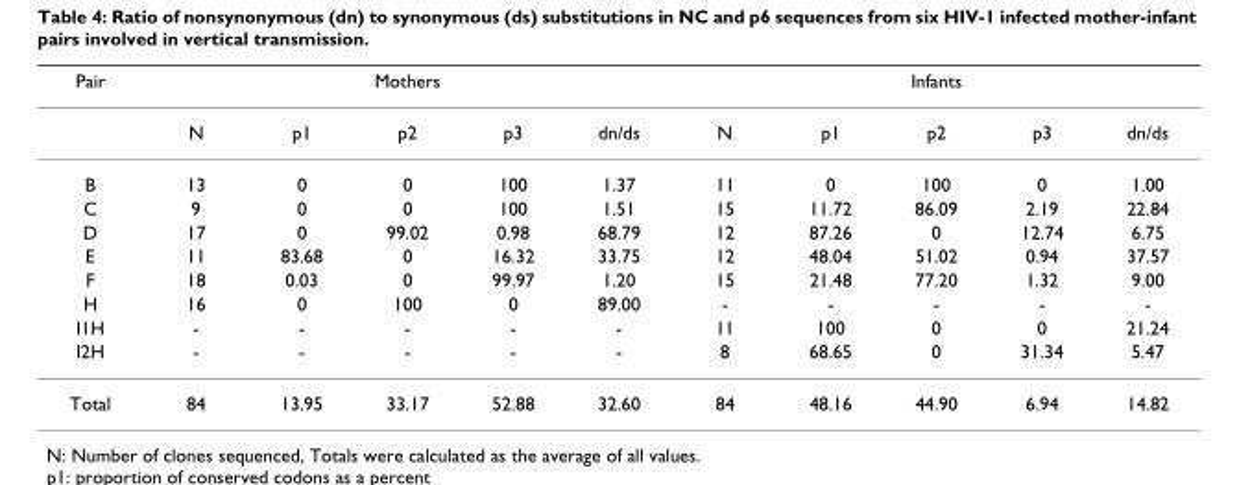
<table><thead><tr><td rowspan="2">Pair</td><td colspan="5">Mothers</td><td colspan="5">Infants</td></tr><tr><td>N</td><td>p1</td><td>p2</td><td>p3</td><td>dn/ds</td><td>N</td><td>p1</td><td>p2</td><td>p3</td><td>dn/ds</td></tr></thead><tbody><tr><td>B</td><td>13</td><td>0</td><td>0</td><td>100</td><td>1.37</td><td>11</td><td>0</td><td>100</td><td>0</td><td>1.00</td></tr><tr><td>C</td><td>9</td><td>0</td><td>0</td><td>100</td><td>1.51</td><td>15</td><td>11.72</td><td>86.09</td><td>2.19</td><td>22.84</td></tr><tr><td>D</td><td>17</td><td>0</td><td>99.02</td><td>0.98</td><td>68.79</td><td>12</td><td>87.26</td><td>0</td><td>12.74</td><td>6.75</td></tr><tr><td>E</td><td>11</td><td>83.68</td><td>0</td><td>16.32</td><td>33.75</td><td>12</td><td>48.04</td><td>51.02</td><td>0.94</td><td>37.57</td></tr><tr><td>F</td><td>18</td><td>0.03</td><td>0</td><td>99.97</td><td>1.20</td><td>15</td><td>21.48</td><td>77.20</td><td>1.32</td><td>9.00</td></tr><tr><td>H</td><td>16</td><td>0</td><td>100</td><td>0</td><td>89.00</td><td>-</td><td>-</td><td>-</td><td>-</td><td>-</td></tr><tr><td>I1H</td><td>-</td><td>-</td><td>-</td><td>-</td><td>-</td><td>11</td><td>100</td><td>0</td><td>0</td><td>21.24</td></tr><tr><td>I2H</td><td>-</td><td>-</td><td>-</td><td>-</td><td>-</td><td>8</td><td>68.65</td><td>0</td><td>31.34</td><td>5.47</td></tr><tr><td>Total</td><td>84</td><td>13.95</td><td>33.17</td><td>52.88</td><td>32.60</td><td>84</td><td>48.16</td><td>44.90</td><td>6.94</td><td>14.82</td></tr></tbody></table>